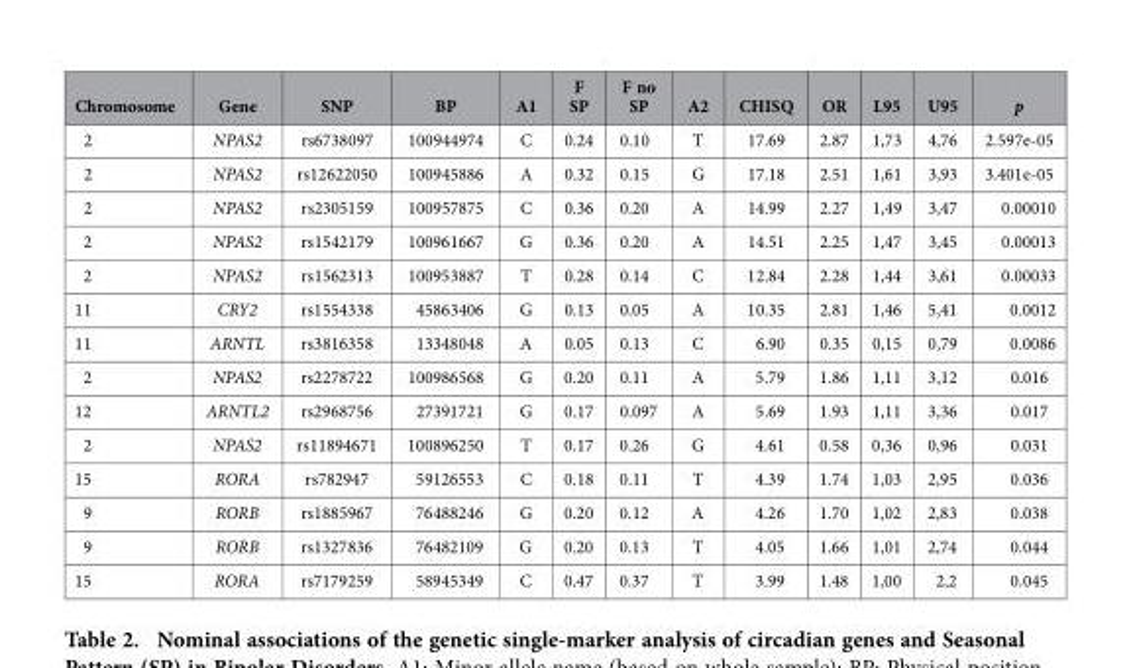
<table><thead><tr><td>Chromosome</td><td>Gene</td><td>SNP</td><td>BP</td><td>A1</td><td>F SP</td><td>F no SP</td><td>A2</td><td>CHISQ</td><td>OR</td><td>L95</td><td>U95</td><td>p</td></tr></thead><tbody><tr><td>2</td><td>NPAS2</td><td>rs6738097</td><td>100944974</td><td>C</td><td>0.24</td><td>0.10</td><td>T</td><td>17.69</td><td>2.87</td><td>1,73</td><td>4,76</td><td>2.597e-05</td></tr><tr><td>2</td><td>NPAS2</td><td>rs12622050</td><td>100945886</td><td>A</td><td>0.32</td><td>0.15</td><td>G</td><td>17.18</td><td>2.51</td><td>1,61</td><td>3,93</td><td>3.401e-05</td></tr><tr><td>2</td><td>NPAS2</td><td>rs2305159</td><td>100957875</td><td>C</td><td>0.36</td><td>0.20</td><td>A</td><td>14.99</td><td>2.27</td><td>1,49</td><td>3,47</td><td>0.00010</td></tr><tr><td>2</td><td>NPAS2</td><td>rs1542179</td><td>100961667</td><td>G</td><td>0.36</td><td>0.20</td><td>A</td><td>14.51</td><td>2.25</td><td>1,47</td><td>3,45</td><td>0.00013</td></tr><tr><td>2</td><td>NPAS2</td><td>rs1562313</td><td>100953887</td><td>T</td><td>0.28</td><td>0.14</td><td>C</td><td>12.84</td><td>2.28</td><td>1,44</td><td>3,61</td><td>0.00033</td></tr><tr><td>11</td><td>CRY2</td><td>rs1554338</td><td>45863406</td><td>G</td><td>0.13</td><td>0.05</td><td>A</td><td>10.35</td><td>2.81</td><td>1,46</td><td>5,41</td><td>0.0012</td></tr><tr><td>11</td><td>ARNTL</td><td>rs3816358</td><td>13348048</td><td>A</td><td>0.05</td><td>0.13</td><td>C</td><td>6.90</td><td>0.35</td><td>0,15</td><td>0,79</td><td>0.0086</td></tr><tr><td>2</td><td>NPAS2</td><td>rs2278722</td><td>100986568</td><td>G</td><td>0.20</td><td>0.11</td><td>A</td><td>5.79</td><td>1.86</td><td>1,11</td><td>3,12</td><td>0.016</td></tr><tr><td>12</td><td>ARNTL2</td><td>rs2968756</td><td>27391721</td><td>G</td><td>0.17</td><td>0.097</td><td>A</td><td>5.69</td><td>1.93</td><td>1,11</td><td>3,36</td><td>0.017</td></tr><tr><td>2</td><td>NPAS2</td><td>rs11894671</td><td>100896250</td><td>T</td><td>0.17</td><td>0.26</td><td>G</td><td>4.61</td><td>0.58</td><td>0,36</td><td>0,96</td><td>0.031</td></tr><tr><td>15</td><td>RORA</td><td>rs782947</td><td>59126553</td><td>C</td><td>0.18</td><td>0.11</td><td>T</td><td>4.39</td><td>1.74</td><td>1,03</td><td>2,95</td><td>0.036</td></tr><tr><td>9</td><td>RORB</td><td>rs1885967</td><td>76488246</td><td>G</td><td>0.20</td><td>0.12</td><td>A</td><td>4.26</td><td>1.70</td><td>1,02</td><td>2,83</td><td>0.038</td></tr><tr><td>9</td><td>RORB</td><td>rs1327836</td><td>76482109</td><td>G</td><td>0.20</td><td>0.13</td><td>T</td><td>4.05</td><td>1.66</td><td>1,01</td><td>2,74</td><td>0.044</td></tr><tr><td>15</td><td>RORA</td><td>rs7179259</td><td>58945349</td><td>C</td><td>0.47</td><td>0.37</td><td>T</td><td>3.99</td><td>1.48</td><td>1,00</td><td>2,2</td><td>0.045</td></tr></tbody></table>